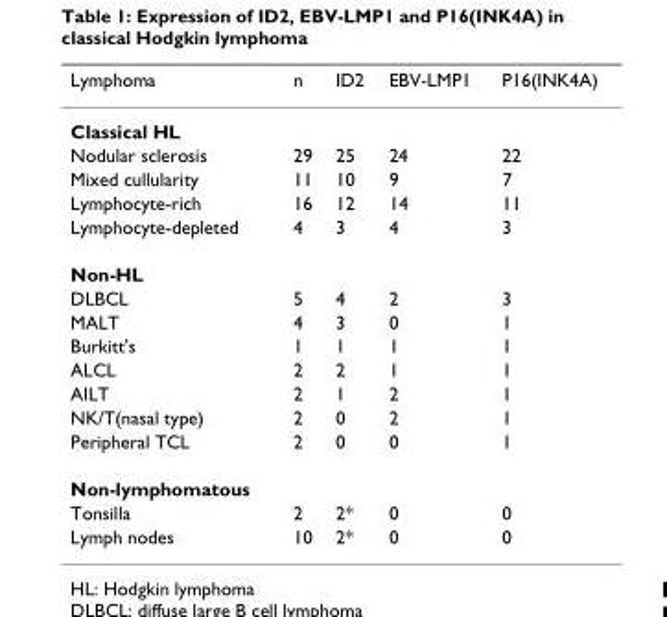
<table><thead><tr><td>Lymphoma</td><td>n</td><td>ID2</td><td>EBV-LMP1</td><td>P16(INK4A)</td></tr></thead><tbody><tr><td colspan="5">Classical HL</td></tr><tr><td>Nodular sclerosis</td><td>29</td><td>25</td><td>24</td><td>22</td></tr><tr><td>Mixed cullularity</td><td>11</td><td>10</td><td>9</td><td>7</td></tr><tr><td>Lymphocyte-rich</td><td>16</td><td>12</td><td>14</td><td>11</td></tr><tr><td>Lymphocyte-depleted</td><td>4</td><td>3</td><td>4</td><td>3</td></tr><tr><td colspan="5">Non-HL</td></tr><tr><td>DLBCL</td><td>5</td><td>4</td><td>2</td><td>3</td></tr><tr><td>MALT</td><td>4</td><td>3</td><td>0</td><td>1</td></tr><tr><td>Burkitt&#x27;s</td><td>1</td><td>1</td><td>1</td><td>1</td></tr><tr><td>ALCL</td><td>2</td><td>2</td><td>1</td><td>1</td></tr><tr><td>AILT</td><td>2</td><td>1</td><td>2</td><td>1</td></tr><tr><td>NK/T(nasal type)</td><td>2</td><td>0</td><td>2</td><td>1</td></tr><tr><td>Peripheral TCL</td><td>2</td><td>0</td><td>0</td><td>1</td></tr><tr><td colspan="5">Non-lymphomatous</td></tr><tr><td>Tonsilla</td><td>2</td><td>2*</td><td>0</td><td>0</td></tr><tr><td>Lymph nodes</td><td>10</td><td>2*</td><td>0</td><td>0</td></tr></tbody></table>